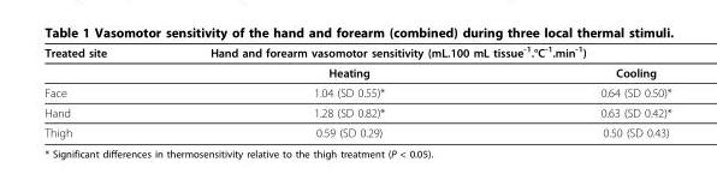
<table><thead><tr><td rowspan="2">Treated site</td><td colspan="2">Hand and forearm vasomotor sensitivity (mL.100 mL tissue<sup>-1</sup>.°C<sup>-1</sup>.min<sup>-1</sup>)</td></tr><tr><td>Heating</td><td>Cooling</td></tr></thead><tbody><tr><td>Face</td><td>1.04 (SD 0.55)*</td><td>0.64 (SD 0.50)*</td></tr><tr><td>Hand</td><td>1.28 (SD 0.82)*</td><td>0.63 (SD 0.42)*</td></tr><tr><td>Thigh</td><td>0.59 (SD 0.29)</td><td>0.50 (SD 0.43)</td></tr></tbody></table>